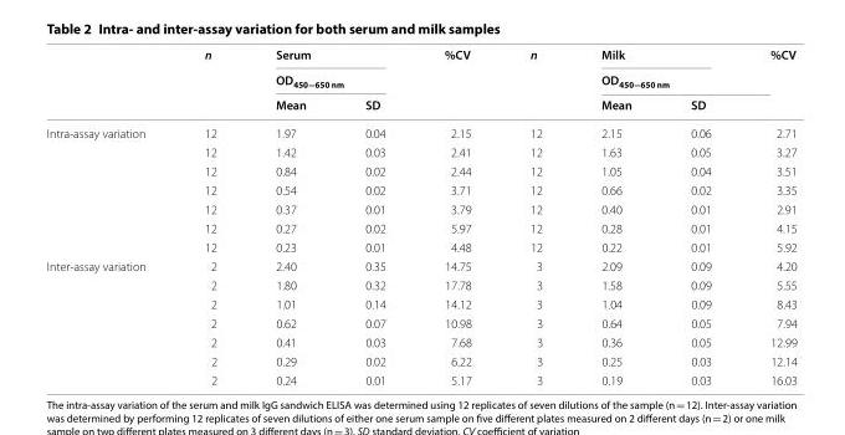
<table><thead><tr><td rowspan="3"></td><td rowspan="3">n</td><td rowspan="2" colspan="2">Serum OD<sub>450−650 nm</sub></td><td rowspan="3">%CV</td><td rowspan="3">n</td><td rowspan="2" colspan="2">Milk OD<sub>450−650 nm</sub></td><td rowspan="3">%CV</td></tr><tr></tr><tr><td>Mean</td><td>SD</td><td>Mean</td><td>SD</td></tr></thead><tbody><tr><td rowspan="7">Intra-assay variation</td><td>12</td><td>1.97</td><td>0.04</td><td>2.15</td><td>12</td><td>2.15</td><td>0.06</td><td>2.71</td></tr><tr><td>12</td><td>1.42</td><td>0.03</td><td>2.41</td><td>12</td><td>1.63</td><td>0.05</td><td>3.27</td></tr><tr><td>12</td><td>0.84</td><td>0.02</td><td>2.44</td><td>12</td><td>1.05</td><td>0.04</td><td>3.51</td></tr><tr><td>12</td><td>0.54</td><td>0.02</td><td>3.71</td><td>12</td><td>0.66</td><td>0.02</td><td>3.35</td></tr><tr><td>12</td><td>0.37</td><td>0.01</td><td>3.79</td><td>12</td><td>0.40</td><td>0.01</td><td>2.91</td></tr><tr><td>12</td><td>0.27</td><td>0.02</td><td>5.97</td><td>12</td><td>0.28</td><td>0.01</td><td>4.15</td></tr><tr><td>12</td><td>0.23</td><td>0.01</td><td>4.48</td><td>12</td><td>0.22</td><td>0.01</td><td>5.92</td></tr><tr><td rowspan="7">Inter-assay variation</td><td>2</td><td>2.40</td><td>0.35</td><td>14.75</td><td>3</td><td>2.09</td><td>0.09</td><td>4.20</td></tr><tr><td>2</td><td>1.80</td><td>0.32</td><td>17.78</td><td>3</td><td>1.58</td><td>0.09</td><td>5.55</td></tr><tr><td>2</td><td>1.01</td><td>0.14</td><td>14.12</td><td>3</td><td>1.04</td><td>0.09</td><td>8.43</td></tr><tr><td>2</td><td>0.62</td><td>0.07</td><td>10.98</td><td>3</td><td>0.64</td><td>0.05</td><td>7.94</td></tr><tr><td>2</td><td>0.41</td><td>0.03</td><td>7.68</td><td>3</td><td>0.36</td><td>0.05</td><td>12.99</td></tr><tr><td>2</td><td>0.29</td><td>0.02</td><td>6.22</td><td>3</td><td>0.25</td><td>0.03</td><td>12.14</td></tr><tr><td>2</td><td>0.24</td><td>0.01</td><td>5.17</td><td>3</td><td>0.19</td><td>0.03</td><td>16.03</td></tr></tbody></table>